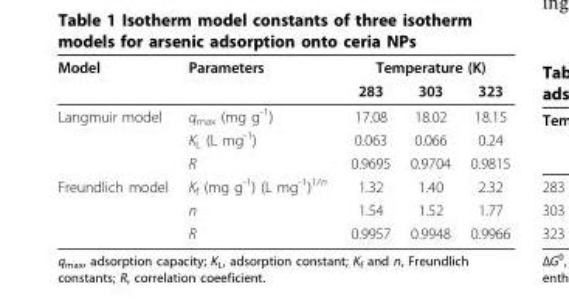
<table><thead><tr><td rowspan="2">Model</td><td rowspan="2">Parameters</td><td colspan="3">Temperature (K)</td></tr><tr><td>283</td><td>303</td><td>323</td></tr></thead><tbody><tr><td rowspan="3">Langmuir model</td><td>q<sub>max</sub> (mg g<sup>-1</sup>)</td><td>17.08</td><td>18.02</td><td>18.15</td></tr><tr><td>K<sub>L</sub> (L mg<sup>-1</sup>)</td><td>0.063</td><td>0.066</td><td>0.24</td></tr><tr><td>R</td><td>0.9695</td><td>0.9704</td><td>0.9815</td></tr><tr><td rowspan="3">Freundlich model</td><td>K<sub>f</sub> (mg g<sup>-1</sup>) (L mg<sup>-1</sup>)<sup>1/n</sup></td><td>1.32</td><td>1.40</td><td>2.32</td></tr><tr><td>n</td><td>1.54</td><td>1.52</td><td>1.77</td></tr><tr><td>R</td><td>0.9957</td><td>0.9948</td><td>0.9966</td></tr></tbody></table>